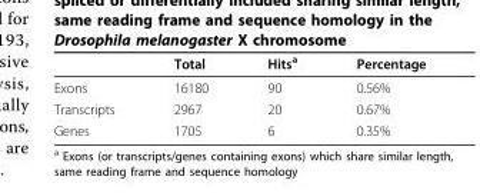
<table><thead><tr><td></td><td>Total</td><td>Hits<sup>a</sup></td><td>Percentage</td></tr></thead><tbody><tr><td>Exons</td><td>16180</td><td>90</td><td>0.56%</td></tr><tr><td>Transcripts</td><td>2967</td><td>20</td><td>0.67%</td></tr><tr><td>Genes</td><td>1705</td><td>6</td><td>0.35%</td></tr></tbody></table>